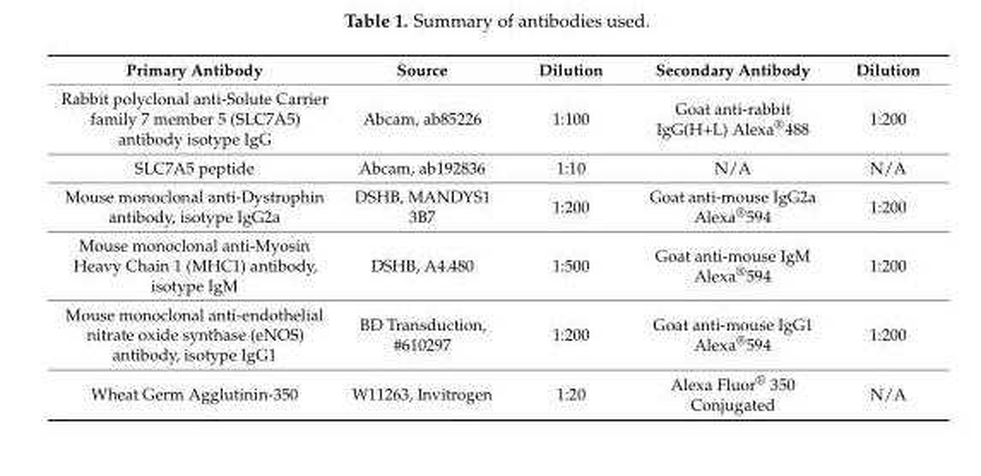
<table><thead><tr><td>Primary Antibody</td><td>Source</td><td>Dilution</td><td>Secondary Antibody</td><td>Dilution</td></tr></thead><tbody><tr><td>Rabbit polyclonal anti-Solute Carrier family 7 member 5 (SLC7A5) antibody isotype IgG</td><td>Abcam, ab85226</td><td>1:100</td><td>Goat anti-rabbit IgG(H+L) Alexa<sup>®</sup>488</td><td>1:200</td></tr><tr><td>SLC7A5 peptide</td><td>Abcam, ab192836</td><td>1:10</td><td>N/A</td><td>N/A</td></tr><tr><td>Mouse monoclonal anti-Dystrophin antibody, isotype IgG2a</td><td>DSHB, MANDYS1 3B7</td><td>1:200</td><td>Goat anti-mouse IgG2a Alexa<sup>®</sup>594</td><td>1:200</td></tr><tr><td>Mouse monoclonal anti-Myosin Heavy Chain 1 (MHC1) antibody, isotype IgM</td><td>DSHB, A4.480</td><td>1:500</td><td>Goat anti-mouse IgM Alexa<sup>®</sup>594</td><td>1:200</td></tr><tr><td>Mouse monoclonal anti-endothelial nitrate oxide synthase (eNOS) antibody, isotype IgG1</td><td>BD Transduction, #610297</td><td>1:200</td><td>Goat anti-mouse IgG1 Alexa<sup>®</sup>594</td><td>1:200</td></tr><tr><td>Wheat Germ Agglutinin-350</td><td>W11263, Invitrogen</td><td>1:20</td><td>Alexa Fluor<sup>®</sup> 350 Conjugated</td><td>N/A</td></tr></tbody></table>